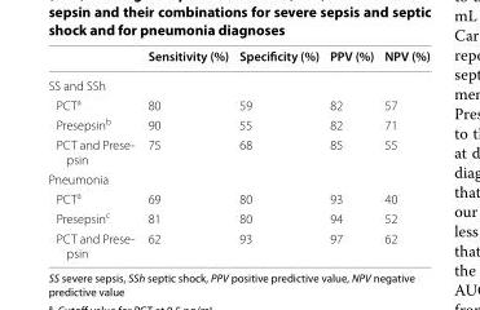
<table><thead><tr><td></td><td>Sensitivity (%)</td><td>Specificity (%)</td><td>PPV (%)</td><td>NPV (%)</td></tr></thead><tbody><tr><td colspan="5">SS and SSh</td></tr><tr><td>PCT<sup>a</sup></td><td>80</td><td>59</td><td>82</td><td>57</td></tr><tr><td>Presepsin<sup>b</sup></td><td>90</td><td>55</td><td>82</td><td>71</td></tr><tr><td>PCT and Prese- psin</td><td>75</td><td>68</td><td>85</td><td>55</td></tr><tr><td colspan="5">Pneumonia</td></tr><tr><td>PCT<sup>a</sup></td><td>69</td><td>80</td><td>93</td><td>40</td></tr><tr><td>Presepsin<sup>c</sup></td><td>81</td><td>80</td><td>94</td><td>52</td></tr><tr><td>PCT and Prese- psin</td><td>62</td><td>93</td><td>97</td><td>62</td></tr></tbody></table>